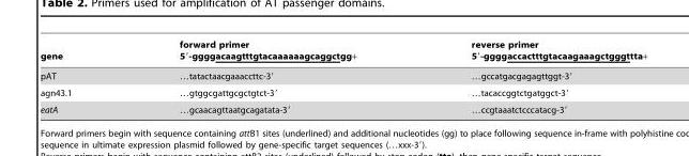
<table><thead><tr><td>gene</td><td>forward primer 5′-ggggacaagtttgtacaaaaaagcaggctgg+</td><td>reverse primer 5′-ggggaccactttgtacaagaaagctgggttta+</td></tr></thead><tbody><tr><td>pAT</td><td>…tatactaacgaaaccttc-3′</td><td>…gccatgacgagagttggt-3′</td></tr><tr><td>agn43.1</td><td>…gtggcgattgcgctgtct-3′</td><td>…tacaccggtctgatggct-3′</td></tr><tr><td>eatA</td><td>…gcaacagttaatgcagatata-3′</td><td>…ccgtaaatctcccatacg-3′</td></tr></tbody></table>